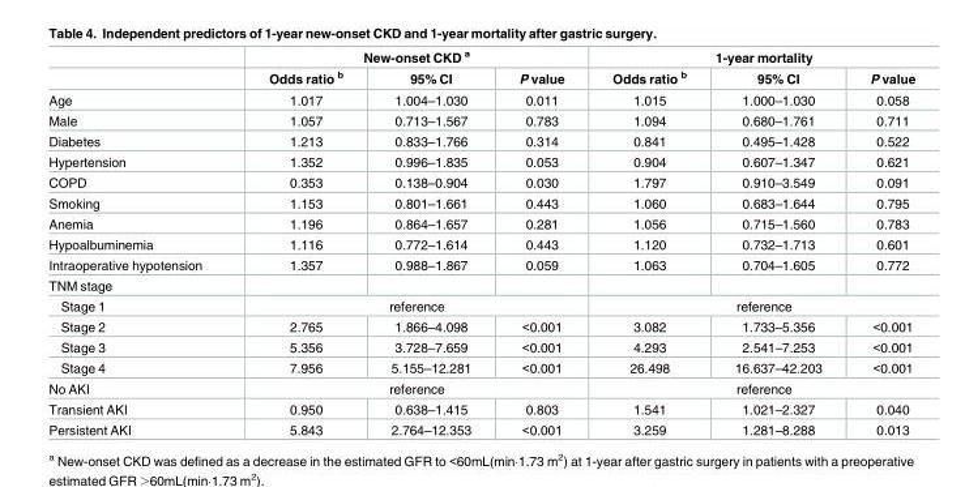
<table><thead><tr><td rowspan="2"></td><td colspan="3">New-onset CKD <sup>a</sup></td><td colspan="3">1-year mortality</td></tr><tr><td>Odds ratio <sup>b</sup></td><td>95% CI</td><td>P value</td><td>Odds ratio <sup>b</sup></td><td>95% CI</td><td>P value</td></tr></thead><tbody><tr><td>Age</td><td>1.017</td><td>1.004–1.030</td><td>0.011</td><td>1.015</td><td>1.000–1.030</td><td>0.058</td></tr><tr><td>Male</td><td>1.057</td><td>0.713–1.567</td><td>0.783</td><td>1.094</td><td>0.680–1.761</td><td>0.711</td></tr><tr><td>Diabetes</td><td>1.213</td><td>0.833–1.766</td><td>0.314</td><td>0.841</td><td>0.495–1.428</td><td>0.522</td></tr><tr><td>Hypertension</td><td>1.352</td><td>0.996–1.835</td><td>0.053</td><td>0.904</td><td>0.607–1.347</td><td>0.621</td></tr><tr><td>COPD</td><td>0.353</td><td>0.138–0.904</td><td>0.030</td><td>1.797</td><td>0.910–3.549</td><td>0.091</td></tr><tr><td>Smoking</td><td>1.153</td><td>0.801–1.661</td><td>0.443</td><td>1.060</td><td>0.683–1.644</td><td>0.795</td></tr><tr><td>Anemia</td><td>1.196</td><td>0.864–1.657</td><td>0.281</td><td>1.056</td><td>0.715–1.560</td><td>0.783</td></tr><tr><td>Hypoalbuminemia</td><td>1.116</td><td>0.772–1.614</td><td>0.443</td><td>1.120</td><td>0.732–1.713</td><td>0.601</td></tr><tr><td>Intraoperative hypotension</td><td>1.357</td><td>0.988–1.867</td><td>0.059</td><td>1.063</td><td>0.704–1.605</td><td>0.772</td></tr><tr><td colspan="7">TNM stage</td></tr><tr><td>Stage 1</td><td colspan="3">reference</td><td colspan="3">reference</td></tr><tr><td>Stage 2</td><td>2.765</td><td>1.866–4.098</td><td>&lt;0.001</td><td>3.082</td><td>1.733–5.356</td><td>&lt;0.001</td></tr><tr><td>Stage 3</td><td>5.356</td><td>3.728–7.659</td><td>&lt;0.001</td><td>4.293</td><td>2.541–7.253</td><td>&lt;0.001</td></tr><tr><td>Stage 4</td><td>7.956</td><td>5.155–12.281</td><td>&lt;0.001</td><td>26.498</td><td>16.637–42.203</td><td>&lt;0.001</td></tr><tr><td>No AKI</td><td colspan="3">reference</td><td colspan="3">reference</td></tr><tr><td>Transient AKI</td><td>0.950</td><td>0.638–1.415</td><td>0.803</td><td>1.541</td><td>1.021–2.327</td><td>0.040</td></tr><tr><td>Persistent AKI</td><td>5.843</td><td>2.764–12.353</td><td>&lt;0.001</td><td>3.259</td><td>1.281–8.288</td><td>0.013</td></tr></tbody></table>